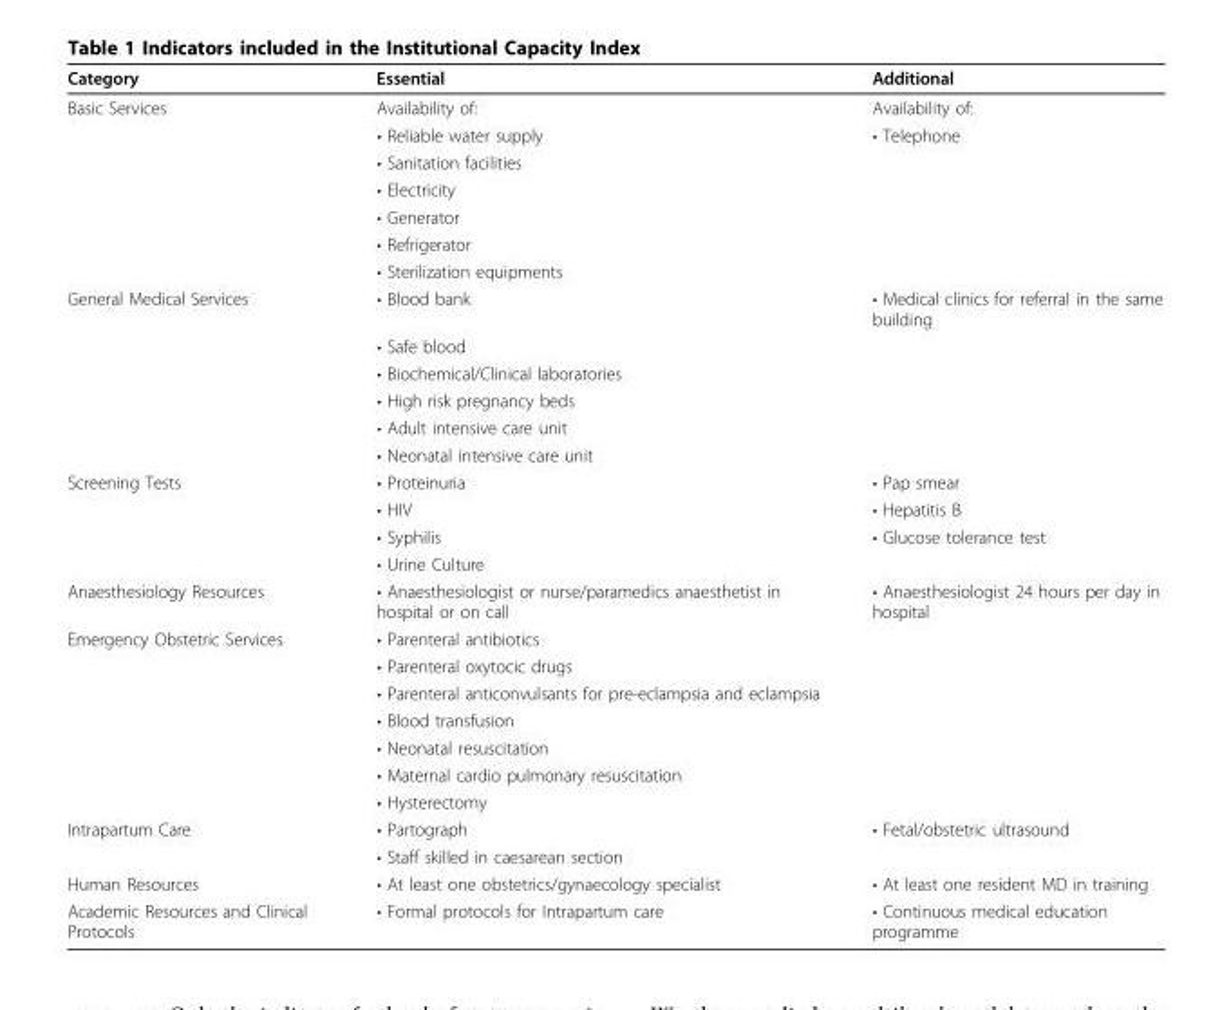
<table><thead><tr><td>Category</td><td>Essential</td><td>Additional</td></tr></thead><tbody><tr><td rowspan="7">Basic Services</td><td>Availability of:</td><td>Availability of:</td></tr><tr><td>• Reliable water supply</td><td>• Telephone</td></tr><tr><td>• Sanitation facilities</td><td></td></tr><tr><td>• Electricity</td><td></td></tr><tr><td>• Generator</td><td></td></tr><tr><td>• Refrigerator</td><td></td></tr><tr><td>• Sterilization equipments</td><td></td></tr><tr><td rowspan="6">General Medical Services</td><td>• Blood bank</td><td>• Medical clinics for referral in the same building</td></tr><tr><td>• Safe blood</td><td></td></tr><tr><td>• Biochemical/Clinical laboratories</td><td></td></tr><tr><td>• High risk pregnancy beds</td><td></td></tr><tr><td>• Adult intensive care unit</td><td></td></tr><tr><td>• Neonatal intensive care unit</td><td></td></tr><tr><td rowspan="4">Screening Tests</td><td>• Proteinuria</td><td>• Pap smear</td></tr><tr><td>• HIV</td><td>• Hepatitis B</td></tr><tr><td>• Syphilis</td><td>• Glucose tolerance test</td></tr><tr><td>• Urine Culture</td><td></td></tr><tr><td>Anaesthesiology Resources</td><td>• Anaesthesiologist or nurse/paramedics anaesthetist in hospital or on call</td><td>• Anaesthesiologist 24 hours per day in hospital</td></tr><tr><td rowspan="7">Emergency Obstetric Services</td><td>• Parenteral antibiotics</td><td></td></tr><tr><td>• Parenteral oxytocic drugs</td><td></td></tr><tr><td>• Parenteral anticonvulsants for pre-eclampsia and eclampsia</td><td></td></tr><tr><td>• Blood transfusion</td><td></td></tr><tr><td>• Neonatal resuscitation</td><td></td></tr><tr><td>• Maternal cardio pulmonary resuscitation</td><td></td></tr><tr><td>• Hysterectomy</td><td></td></tr><tr><td rowspan="2">Intrapartum Care</td><td>• Partograph</td><td>• Fetal/obstetric ultrasound</td></tr><tr><td>• Staff skilled in caesarean section</td><td></td></tr><tr><td>Human Resources</td><td>• At least one obstetrics/gynaecology specialist</td><td>• At least one resident MD in training</td></tr><tr><td>Academic Resources and Clinical Protocols</td><td>• Formal protocols for Intrapartum care</td><td>• Continuous medical education programme</td></tr></tbody></table>